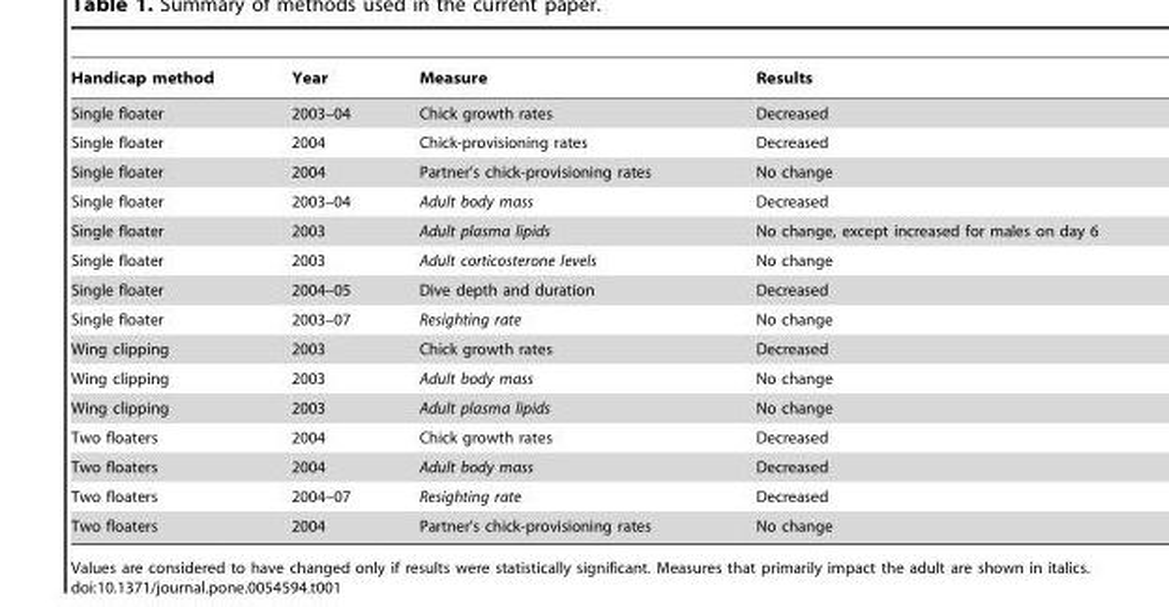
<table><thead><tr><td>Handicap method</td><td>Year</td><td>Measure</td><td>Results</td></tr></thead><tbody><tr><td>Single floater</td><td>2003–04</td><td>Chick growth rates</td><td>Decreased</td></tr><tr><td>Single floater</td><td>2004</td><td>Chick-provisioning rates</td><td>Decreased</td></tr><tr><td>Single floater</td><td>2004</td><td>Partner’s chick-provisioning rates</td><td>No change</td></tr><tr><td>Single floater</td><td>2003–04</td><td>Adult body mass</td><td>Decreased</td></tr><tr><td>Single floater</td><td>2003</td><td>Adult plasma lipids</td><td>No change, except increased for males on day 6</td></tr><tr><td>Single floater</td><td>2003</td><td>Adult corticosterone levels</td><td>No change</td></tr><tr><td>Single floater</td><td>2004–05</td><td>Dive depth and duration</td><td>Decreased</td></tr><tr><td>Single floater</td><td>2003–07</td><td>Resighting rate</td><td>No change</td></tr><tr><td>Wing clipping</td><td>2003</td><td>Chick growth rates</td><td>Decreased</td></tr><tr><td>Wing clipping</td><td>2003</td><td>Adult body mass</td><td>No change</td></tr><tr><td>Wing clipping</td><td>2003</td><td>Adult plasma lipids</td><td>No change</td></tr><tr><td>Two floaters</td><td>2004</td><td>Chick growth rates</td><td>Decreased</td></tr><tr><td>Two floaters</td><td>2004</td><td>Adult body mass</td><td>Decreased</td></tr><tr><td>Two floaters</td><td>2004–07</td><td>Resighting rate</td><td>Decreased</td></tr><tr><td>Two floaters</td><td>2004</td><td>Partner’s chick-provisioning rates</td><td>No change</td></tr></tbody></table>